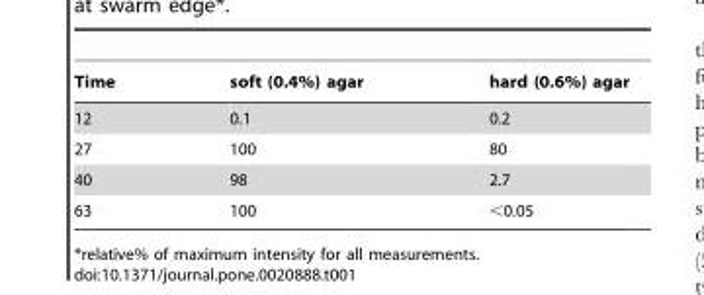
<table><thead><tr><td>Time</td><td>soft (0.4%) agar</td><td>hard (0.6%) agar</td></tr></thead><tbody><tr><td>12</td><td>0.1</td><td>0.2</td></tr><tr><td>27</td><td>100</td><td>80</td></tr><tr><td>40</td><td>98</td><td>2.7</td></tr><tr><td>63</td><td>100</td><td>&lt;0.05</td></tr></tbody></table>